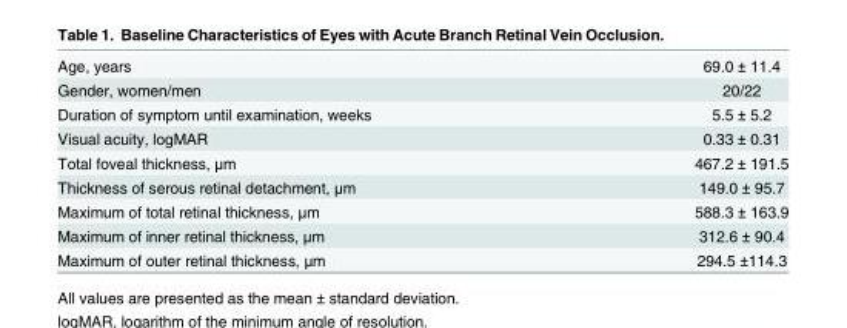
<table><tbody><tr><td>Age, years</td><td>69.0 ± 11.4</td></tr><tr><td>Gender, women/men</td><td>20/22</td></tr><tr><td>Duration of symptom until examination, weeks</td><td>5.5 ± 5.2</td></tr><tr><td>Visual acuity, logMAR</td><td>0.33 ± 0.31</td></tr><tr><td>Total foveal thickness, μm</td><td>467.2 ± 191.5</td></tr><tr><td>Thickness of serous retinal detachment, μm</td><td>149.0 ± 95.7</td></tr><tr><td>Maximum of total retinal thickness, μm</td><td>588.3 ± 163.9</td></tr><tr><td>Maximum of inner retinal thickness, μm</td><td>312.6 ± 90.4</td></tr><tr><td>Maximum of outer retinal thickness, μm</td><td>294.5 ±114.3</td></tr></tbody></table>